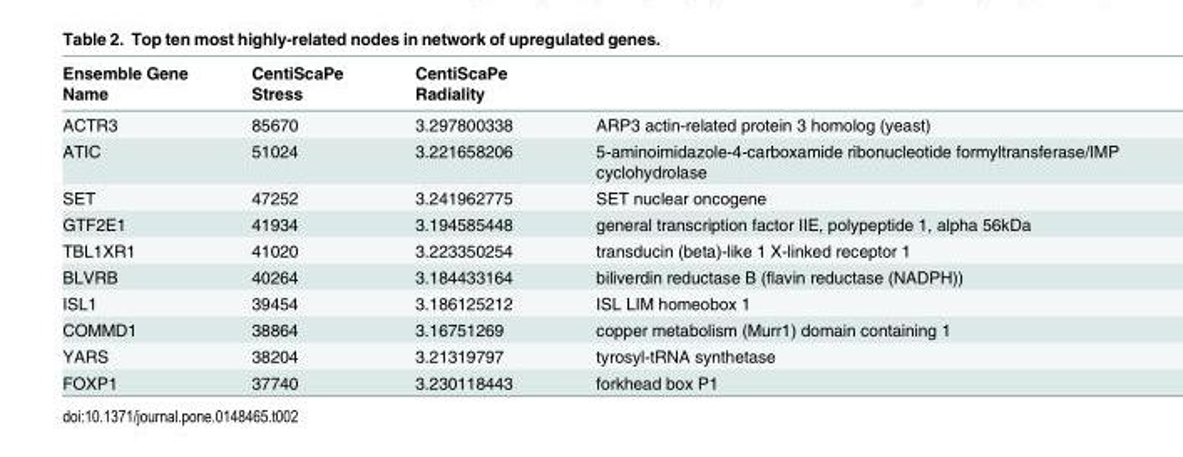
<table><thead><tr><td>Ensemble Gene Name</td><td>CentiScaPe Stress</td><td>CentiScaPe Radiality</td><td></td></tr></thead><tbody><tr><td>ACTR3</td><td>85670</td><td>3.297800338</td><td>ARP3 actin-related protein 3 homolog (yeast)</td></tr><tr><td>ATIC</td><td>51024</td><td>3.221658206</td><td>5-aminoimidazole-4-carboxamide ribonucleotide formyltransferase/IMP cyclohydrolase</td></tr><tr><td>SET</td><td>47252</td><td>3.241962775</td><td>SET nuclear oncogene</td></tr><tr><td>GTF2E1</td><td>41934</td><td>3.194585448</td><td>general transcription factor IIE, polypeptide 1, alpha 56kDa</td></tr><tr><td>TBL1XR1</td><td>41020</td><td>3.223350254</td><td>transducin (beta)-like 1 X-linked receptor 1</td></tr><tr><td>BLVRB</td><td>40264</td><td>3.184433164</td><td>biliverdin reductase B (flavin reductase (NADPH))</td></tr><tr><td>ISL1</td><td>39454</td><td>3.186125212</td><td>ISL LIM homeobox 1</td></tr><tr><td>COMMD1</td><td>38864</td><td>3.16751269</td><td>copper metabolism (Murr1) domain containing 1</td></tr><tr><td>YARS</td><td>38204</td><td>3.21319797</td><td>tyrosyl-tRNA synthetase</td></tr><tr><td>FOXP1</td><td>37740</td><td>3.230118443</td><td>forkhead box P1</td></tr></tbody></table>